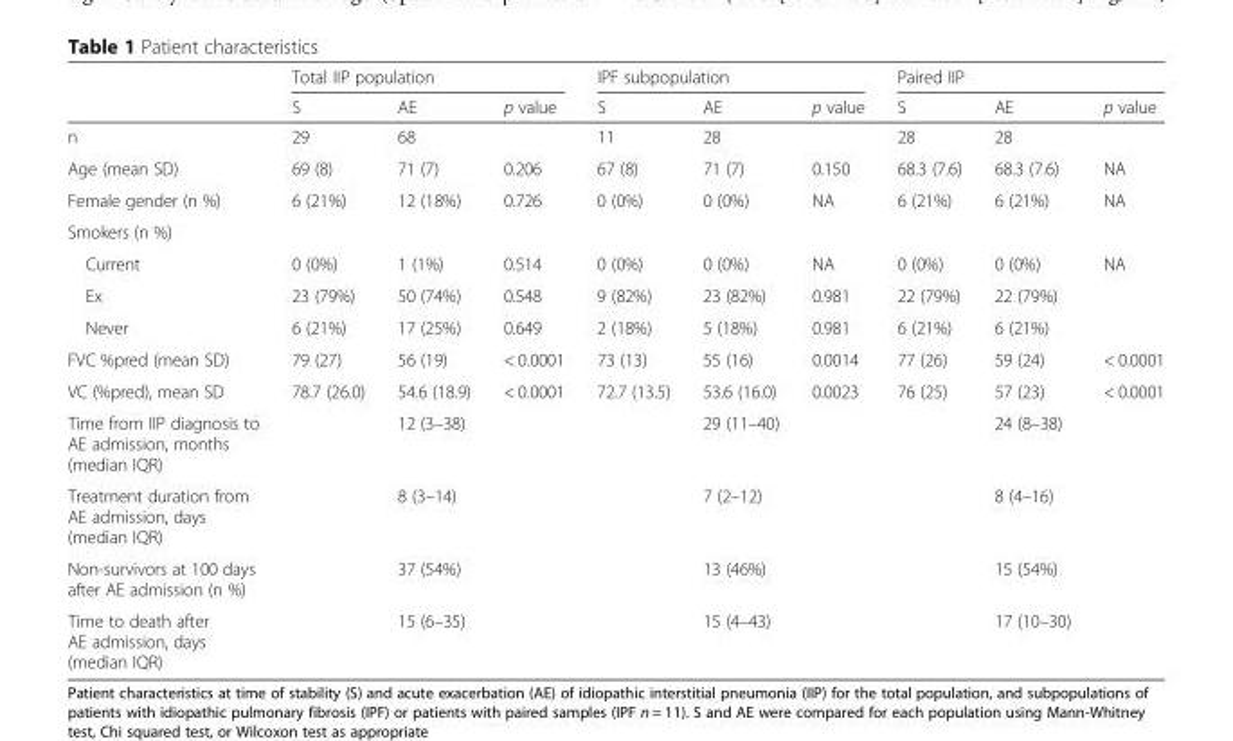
<table><thead><tr><td rowspan="2"></td><td colspan="3">Total IIP population</td><td colspan="3">IPF subpopulation</td><td colspan="3">Paired IIP</td></tr><tr><td>S</td><td>AE</td><td>p value</td><td>S</td><td>AE</td><td>p value</td><td>S</td><td>AE</td><td>p value</td></tr></thead><tbody><tr><td>n</td><td>29</td><td>68</td><td></td><td>11</td><td>28</td><td></td><td>28</td><td>28</td><td></td></tr><tr><td>Age (mean SD)</td><td>69 (8)</td><td>71 (7)</td><td>0.206</td><td>67 (8)</td><td>71 (7)</td><td>0.150</td><td>68.3 (7.6)</td><td>68.3 (7.6)</td><td>NA</td></tr><tr><td>Female gender (n %)</td><td>6 (21%)</td><td>12 (18%)</td><td>0.726</td><td>0 (0%)</td><td>0 (0%)</td><td>NA</td><td>6 (21%)</td><td>6 (21%)</td><td>NA</td></tr><tr><td colspan="10">Smokers (n %)</td></tr><tr><td>Current</td><td>0 (0%)</td><td>1 (1%)</td><td>0.514</td><td>0 (0%)</td><td>0 (0%)</td><td>NA</td><td>0 (0%)</td><td>0 (0%)</td><td rowspan="3">NA</td></tr><tr><td>Ex</td><td>23 (79%)</td><td>50 (74%)</td><td>0.548</td><td>9 (82%)</td><td>23 (82%)</td><td>0.981</td><td>22 (79%)</td><td>22 (79%)</td></tr><tr><td>Never</td><td>6 (21%)</td><td>17 (25%)</td><td>0.649</td><td>2 (18%)</td><td>5 (18%)</td><td>0.981</td><td>6 (21%)</td><td>6 (21%)</td></tr><tr><td>FVC %pred (mean SD)</td><td>79 (27)</td><td>56 (19)</td><td>&lt; 0.0001</td><td>73 (13)</td><td>55 (16)</td><td>0.0014</td><td>77 (26)</td><td>59 (24)</td><td>&lt; 0.0001</td></tr><tr><td>VC (%pred), mean SD</td><td>78.7 (26.0)</td><td>54.6 (18.9)</td><td>&lt; 0.0001</td><td>72.7 (13.5)</td><td>53.6 (16.0)</td><td>0.0023</td><td>76 (25)</td><td>57 (23)</td><td>&lt; 0.0001</td></tr><tr><td>Time from IIP diagnosis to AE admission, months (median IQR)</td><td></td><td>12 (3–38)</td><td></td><td></td><td>29 (11–40)</td><td></td><td></td><td>24 (8–38)</td><td></td></tr><tr><td>Treatment duration from AE admission, days (median IQR)</td><td></td><td>8 (3–14)</td><td></td><td></td><td>7 (2–12)</td><td></td><td></td><td>8 (4–16)</td><td></td></tr><tr><td>Non-survivors at 100 days after AE admission (n %)</td><td></td><td>37 (54%)</td><td></td><td></td><td>13 (46%)</td><td></td><td></td><td>15 (54%)</td><td></td></tr><tr><td>Time to death after AE admission, days (median IQR)</td><td></td><td>15 (6–35)</td><td></td><td></td><td>15 (4–43)</td><td></td><td></td><td>17 (10–30)</td><td></td></tr></tbody></table>